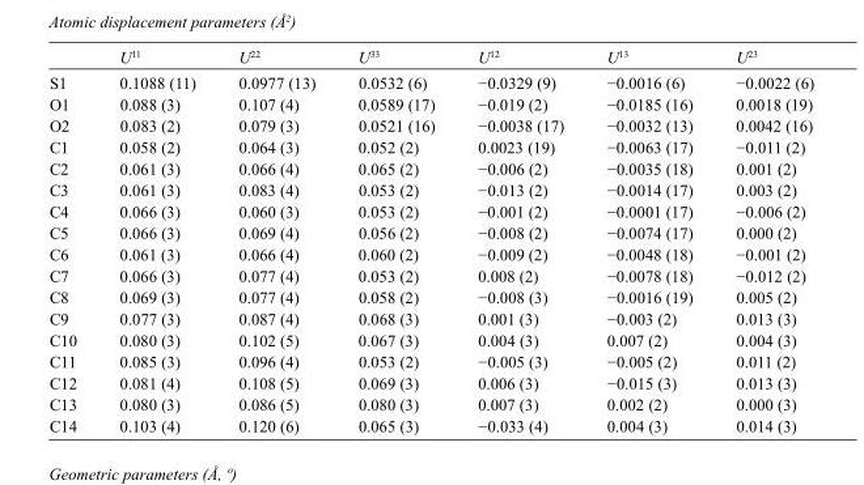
<table><thead><tr><td></td><td>U<sup>11</sup></td><td>U<sup>22</sup></td><td>U<sup>33</sup></td><td>U<sup>12</sup></td><td>U<sup>13</sup></td><td>U<sup>23</sup></td></tr></thead><tbody><tr><td>S1</td><td>0.1088 (11)</td><td>0.0977 (13)</td><td>0.0532 (6)</td><td>−0.0329 (9)</td><td>−0.0016 (6)</td><td>−0.0022 (6)</td></tr><tr><td>O1</td><td>0.088 (3)</td><td>0.107 (4)</td><td>0.0589 (17)</td><td>−0.019 (2)</td><td>−0.0185 (16)</td><td>0.0018 (19)</td></tr><tr><td>O2</td><td>0.083 (2)</td><td>0.079 (3)</td><td>0.0521 (16)</td><td>−0.0038 (17)</td><td>−0.0032 (13)</td><td>0.0042 (16)</td></tr><tr><td>C1</td><td>0.058 (2)</td><td>0.064 (3)</td><td>0.052 (2)</td><td>0.0023 (19)</td><td>−0.0063 (17)</td><td>−0.011 (2)</td></tr><tr><td>C2</td><td>0.061 (3)</td><td>0.066 (4)</td><td>0.065 (2)</td><td>−0.006 (2)</td><td>−0.0035 (18)</td><td>0.001 (2)</td></tr><tr><td>C3</td><td>0.061 (3)</td><td>0.083 (4)</td><td>0.053 (2)</td><td>−0.013 (2)</td><td>−0.0014 (17)</td><td>0.003 (2)</td></tr><tr><td>C4</td><td>0.066 (3)</td><td>0.060 (3)</td><td>0.053 (2)</td><td>−0.001 (2)</td><td>−0.0001 (17)</td><td>−0.006 (2)</td></tr><tr><td>C5</td><td>0.066 (3)</td><td>0.069 (4)</td><td>0.056 (2)</td><td>−0.008 (2)</td><td>−0.0074 (17)</td><td>0.000 (2)</td></tr><tr><td>C6</td><td>0.061 (3)</td><td>0.066 (4)</td><td>0.060 (2)</td><td>−0.009 (2)</td><td>−0.0048 (18)</td><td>−0.001 (2)</td></tr><tr><td>C7</td><td>0.066 (3)</td><td>0.077 (4)</td><td>0.053 (2)</td><td>0.008 (2)</td><td>−0.0078 (18)</td><td>−0.012 (2)</td></tr><tr><td>C8</td><td>0.069 (3)</td><td>0.077 (4)</td><td>0.058 (2)</td><td>−0.008 (3)</td><td>−0.0016 (19)</td><td>0.005 (2)</td></tr><tr><td>C9</td><td>0.077 (3)</td><td>0.087 (4)</td><td>0.068 (3)</td><td>0.001 (3)</td><td>−0.003 (2)</td><td>0.013 (3)</td></tr><tr><td>C10</td><td>0.080 (3)</td><td>0.102 (5)</td><td>0.067 (3)</td><td>0.004 (3)</td><td>0.007 (2)</td><td>0.004 (3)</td></tr><tr><td>C11</td><td>0.085 (3)</td><td>0.096 (4)</td><td>0.053 (2)</td><td>−0.005 (3)</td><td>−0.005 (2)</td><td>0.011 (2)</td></tr><tr><td>C12</td><td>0.081 (4)</td><td>0.108 (5)</td><td>0.069 (3)</td><td>0.006 (3)</td><td>−0.015 (3)</td><td>0.013 (3)</td></tr><tr><td>C13</td><td>0.080 (3)</td><td>0.086 (5)</td><td>0.080 (3)</td><td>0.007 (3)</td><td>0.002 (2)</td><td>0.000 (3)</td></tr><tr><td>C14</td><td>0.103 (4)</td><td>0.120 (6)</td><td>0.065 (3)</td><td>−0.033 (4)</td><td>0.004 (3)</td><td>0.014 (3)</td></tr></tbody></table>